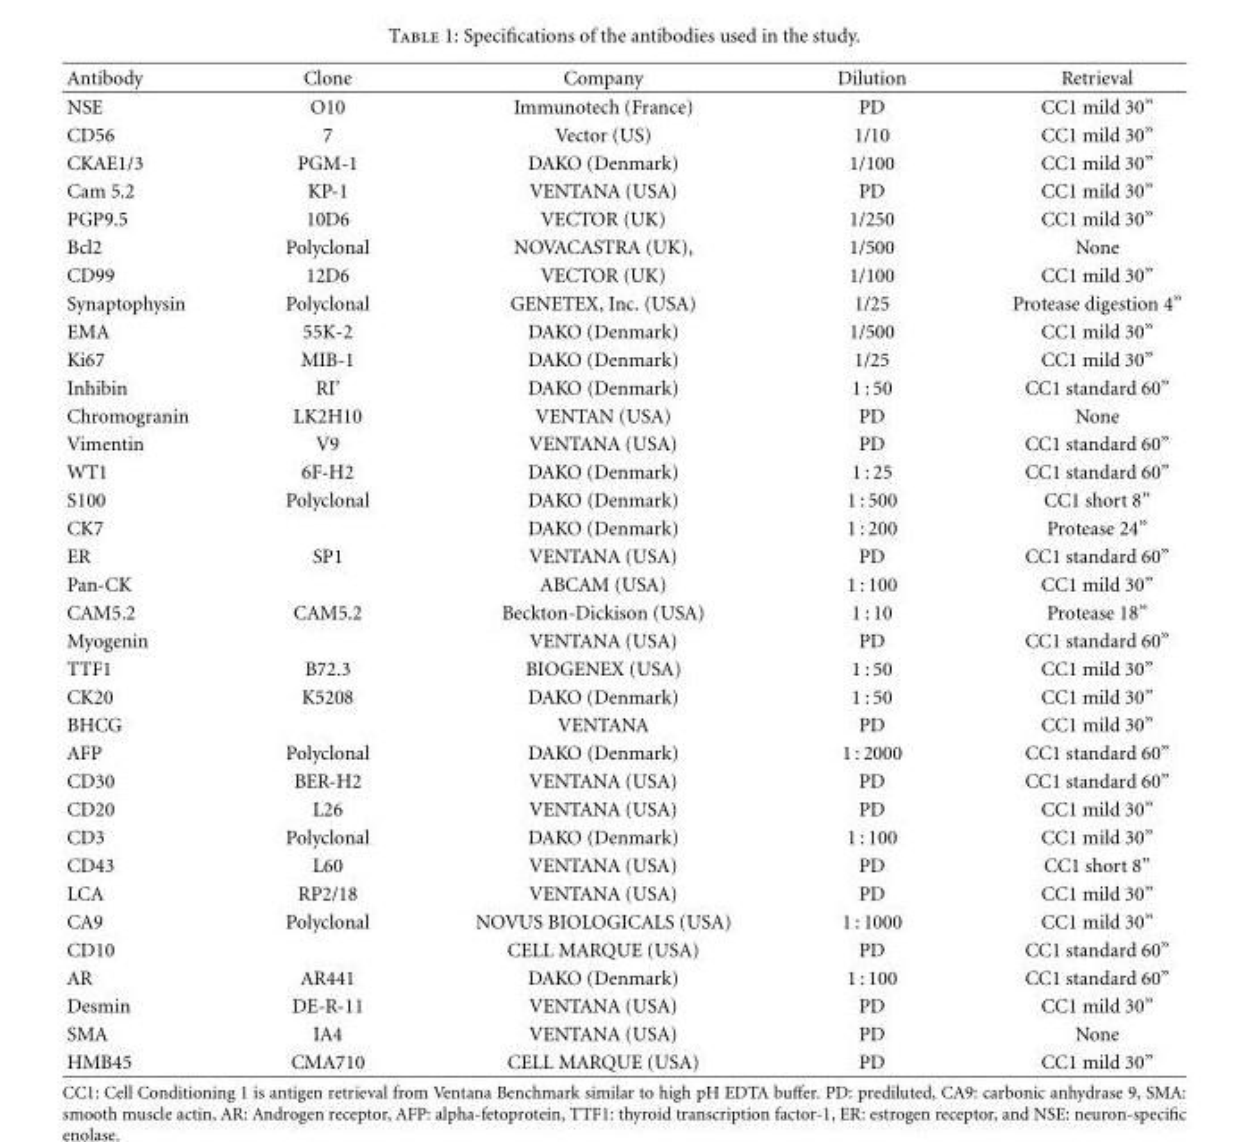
<table><thead><tr><td>Antibody</td><td>Clone</td><td>Company</td><td>Dilution</td><td>Retrieval</td></tr></thead><tbody><tr><td>NSE</td><td>O10</td><td>Immunotech (France)</td><td>PD</td><td>CC1 mild 30”</td></tr><tr><td>CD56</td><td>7</td><td>Vector (US)</td><td>1/10</td><td>CC1 mild 30”</td></tr><tr><td>CKAE1/3</td><td>PGM-1</td><td>DAKO (Denmark)</td><td>1/100</td><td>CC1 mild 30”</td></tr><tr><td>Cam 5.2</td><td>KP-1</td><td>VENTANA (USA)</td><td>PD</td><td>CC1 mild 30”</td></tr><tr><td>PGP9.5</td><td>10D6</td><td>VECTOR (UK)</td><td>1/250</td><td>CC1 mild 30”</td></tr><tr><td>Bcl2</td><td>Polyclonal</td><td>NOVACASTRA (UK),</td><td>1/500</td><td>None</td></tr><tr><td>CD99</td><td>12D6</td><td>VECTOR (UK)</td><td>1/100</td><td>CC1 mild 30”</td></tr><tr><td>Synaptophysin</td><td>Polyclonal</td><td>GENETEX, Inc. (USA)</td><td>1/25</td><td>Protease digestion 4”</td></tr><tr><td>EMA</td><td>55K-2</td><td>DAKO (Denmark)</td><td>1/500</td><td>CC1 mild 30”</td></tr><tr><td>Ki67</td><td>MIB-1</td><td>DAKO (Denmark)</td><td>1/25</td><td>CC1 mild 30”</td></tr><tr><td>Inhibin</td><td>RI’</td><td>DAKO (Denmark)</td><td>1 : 50</td><td>CC1 standard 60”</td></tr><tr><td>Chromogranin</td><td>LK2H10</td><td>VENTAN (USA)</td><td>PD</td><td>None</td></tr><tr><td>Vimentin</td><td>V9</td><td>VENTANA (USA)</td><td>PD</td><td>CC1 standard 60”</td></tr><tr><td>WT1</td><td>6F-H2</td><td>DAKO (Denmark)</td><td>1 : 25</td><td>CC1 standard 60”</td></tr><tr><td>S100</td><td>Polyclonal</td><td>DAKO (Denmark)</td><td>1 : 500</td><td>CC1 short 8”</td></tr><tr><td>CK7</td><td></td><td>DAKO (Denmark)</td><td>1 : 200</td><td>Protease 24”</td></tr><tr><td>ER</td><td>SP1</td><td>VENTANA (USA)</td><td>PD</td><td>CC1 standard 60”</td></tr><tr><td>Pan-CK</td><td></td><td>ABCAM (USA)</td><td>1 : 100</td><td>CC1 mild 30”</td></tr><tr><td>CAM5.2</td><td>CAM5.2</td><td>Beckton-Dickison (USA)</td><td>1 : 10</td><td>Protease 18”</td></tr><tr><td>Myogenin</td><td></td><td>VENTANA (USA)</td><td>PD</td><td>CC1 standard 60”</td></tr><tr><td>TTF1</td><td>B72.3</td><td>BIOGENEX (USA)</td><td>1 : 50</td><td>CC1 mild 30”</td></tr><tr><td>CK20</td><td>K5208</td><td>DAKO (Denmark)</td><td>1 : 50</td><td>CC1 mild 30”</td></tr><tr><td>BHCG</td><td></td><td>VENTANA</td><td>PD</td><td>CC1 mild 30”</td></tr><tr><td>AFP</td><td>Polyclonal</td><td>DAKO (Denmark)</td><td>1 : 2000</td><td>CC1 standard 60”</td></tr><tr><td>CD30</td><td>BER-H2</td><td>VENTANA (USA)</td><td>PD</td><td>CC1 standard 60”</td></tr><tr><td>CD20</td><td>L26</td><td>VENTANA (USA)</td><td>PD</td><td>CC1 mild 30”</td></tr><tr><td>CD3</td><td>Polyclonal</td><td>DAKO (Denmark)</td><td>1 : 100</td><td>CC1 mild 30”</td></tr><tr><td>CD43</td><td>L60</td><td>VENTANA (USA)</td><td>PD</td><td>CC1 short 8”</td></tr><tr><td>LCA</td><td>RP2/18</td><td>VENTANA (USA)</td><td>PD</td><td>CC1 mild 30”</td></tr><tr><td>CA9</td><td>Polyclonal</td><td>NOVUS BIOLOGICALS (USA)</td><td>1 : 1000</td><td>CC1 mild 30”</td></tr><tr><td>CD10</td><td></td><td>CELL MARQUE (USA)</td><td>PD</td><td>CC1 standard 60”</td></tr><tr><td>AR</td><td>AR441</td><td>DAKO (Denmark)</td><td>1 : 100</td><td>CC1 standard 60”</td></tr><tr><td>Desmin</td><td>DE-R-11</td><td>VENTANA (USA)</td><td>PD</td><td>CC1 mild 30”</td></tr><tr><td>SMA</td><td>IA4</td><td>VENTANA (USA)</td><td>PD</td><td>None</td></tr><tr><td>HMB45</td><td>CMA710</td><td>CELL MARQUE (USA)</td><td>PD</td><td>CC1 mild 30”</td></tr></tbody></table>